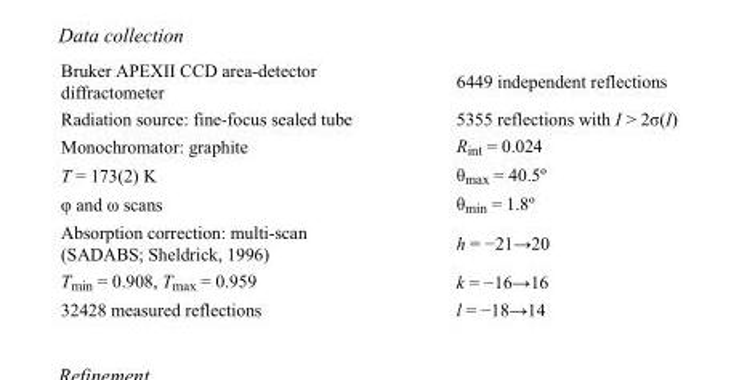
<table><tbody><tr><td>Bruker APEXII CCD area-detector diffractometer</td><td>6449 independent reflections</td></tr><tr><td>Radiation source: fine-focus sealed tube</td><td>5355 reflections with I &gt; 2σ(I)</td></tr><tr><td>Monochromator: graphite</td><td>R<sub>int</sub> = 0.024</td></tr><tr><td>T = 173(2) K</td><td>θ<sub>max</sub> = 40.5º</td></tr><tr><td>φ and ω scans</td><td>θ<sub>min</sub> = 1.8º</td></tr><tr><td>Absorption correction: multi-scan (SADABS; Sheldrick, 1996)</td><td>h = −21→20</td></tr><tr><td>T<sub>min</sub> = 0.908, T<sub>max</sub> = 0.959</td><td>k = −16→16</td></tr><tr><td>32428 measured reflections</td><td>l = −18→14</td></tr></tbody></table>